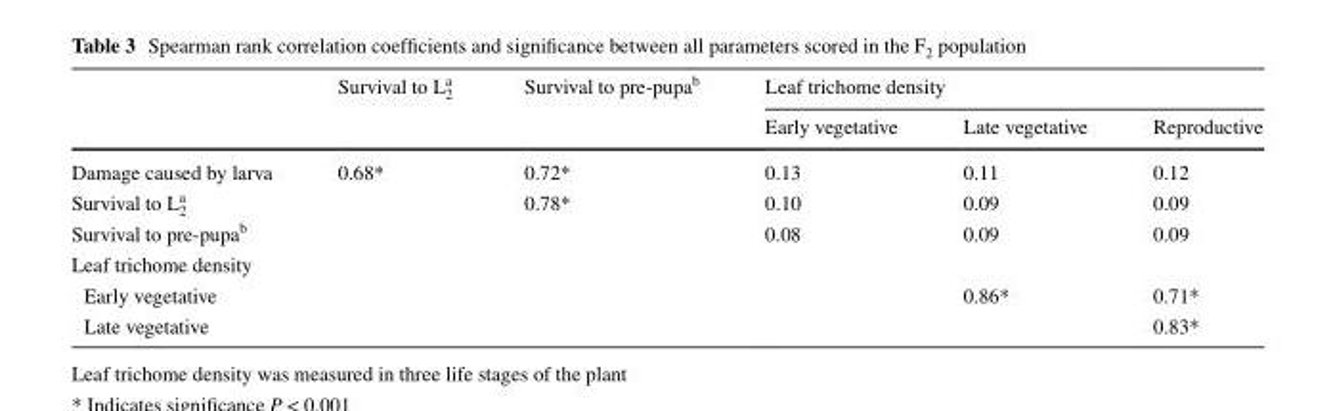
<table><thead><tr><td rowspan="2"></td><td rowspan="2">Survival to L<sub>2</sub> <sup>a</sup></td><td rowspan="2">Survival to pre-pupa<sup>b</sup></td><td colspan="3">Leaf trichome density</td></tr><tr><td>Early vegetative</td><td>Late vegetative</td><td>Reproductive</td></tr></thead><tbody><tr><td>Damage caused by larva</td><td>0.68*</td><td>0.72*</td><td>0.13</td><td>0.11</td><td>0.12</td></tr><tr><td>Survival to L<sub>2</sub> <sup>a</sup></td><td></td><td>0.78*</td><td>0.10</td><td>0.09</td><td>0.09</td></tr><tr><td>Survival to pre-pupa<sup>b</sup></td><td></td><td></td><td>0.08</td><td>0.09</td><td>0.09</td></tr><tr><td colspan="6">Leaf trichome density</td></tr><tr><td>Early vegetative</td><td></td><td></td><td></td><td>0.86*</td><td>0.71*</td></tr><tr><td>Late vegetative</td><td></td><td></td><td></td><td></td><td>0.83*</td></tr></tbody></table>